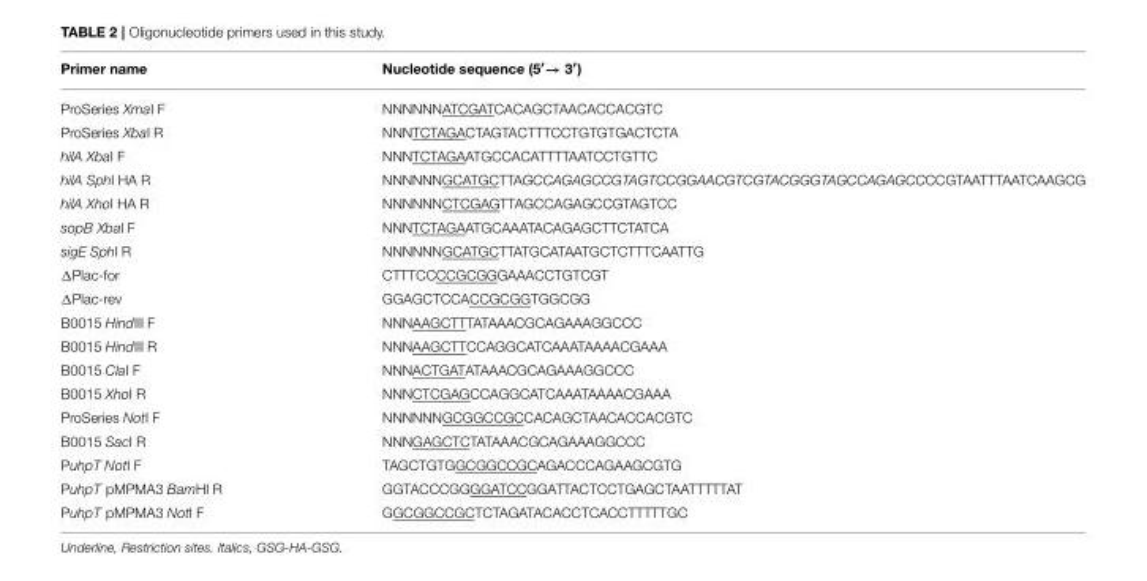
<table><thead><tr><td>Primer name</td><td>Nucleotide sequence (5′→ 3′)</td></tr></thead><tbody><tr><td>ProSeries XmaI F</td><td>NNNNNNATCGATCACAGCTAACACCACGTC</td></tr><tr><td>ProSeries XbaI R</td><td>NNNTCTAGACTAGTACTTTCCTGTGTGACTCTA</td></tr><tr><td>hilA XbaI F</td><td>NNNTCTAGAATGCCACATTTTAATCCTGTTC</td></tr><tr><td>hilA SphI HA R</td><td>NNNNNNGCATGCTTAGCCAGAGCCGTAGTCCGGAACGTCGTACGGGTAGCCAGAGCCCCGTAATTTAATCAAGCG</td></tr><tr><td>hilA XhoI HA R</td><td>NNNNNNCTCGAGTTAGCCAGAGCCGTAGTCC</td></tr><tr><td>sopB XbaI F</td><td>NNNTCTAGAATGCAAATACAGAGCTTCTATCA</td></tr><tr><td>sigE SphI R</td><td>NNNNNNGCATGCTTATGCATAATGCTCTTTCAATTG</td></tr><tr><td>ΔPlac-for</td><td>CTTTCCCCGCGGGAAACCTGTCGT</td></tr><tr><td>ΔPlac-rev</td><td>GGAGCTCCACCGCGGTGGCGG</td></tr><tr><td>B0015 HindIII F</td><td>NNNAAGCTTTATAAACGCAGAAAGGCCC</td></tr><tr><td>B0015 HindIII R</td><td>NNNAAGCTTCCAGGCATCAAATAAAACGAAA</td></tr><tr><td>B0015 ClaI F</td><td>NNNACTGATATAAACGCAGAAAGGCCC</td></tr><tr><td>B0015 XhoI R</td><td>NNNCTCGAGCCAGGCATCAAATAAAACGAAA</td></tr><tr><td>ProSeries NotI F</td><td>NNNNNNGCGGCCGCCACAGCTAACACCACGTC</td></tr><tr><td>B0015 SacI R</td><td>NNNGAGCTCTATAAACGCAGAAAGGCCC</td></tr><tr><td>PuhpT NotI F</td><td>TAGCTGTGGCGGCCGCAGACCCAGAAGCGTG</td></tr><tr><td>PuhpT pMPMA3 BamHI R</td><td>GGTACCCGGGGATCCGGATTACTCCTGAGCTAATTTTTAT</td></tr><tr><td>PuhpT pMPMA3 NotI F</td><td>GGCGGCCGCTCTAGATACACCTCACCTTTTTGC</td></tr></tbody></table>